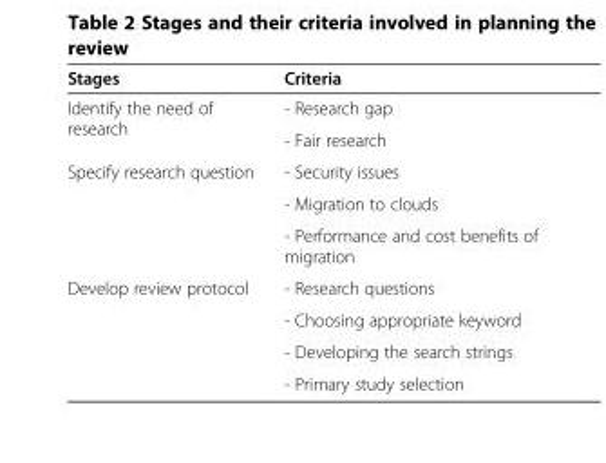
<table><thead><tr><td>Stages</td><td>Criteria</td></tr></thead><tbody><tr><td rowspan="2">Identify the need of research</td><td>- Research gap</td></tr><tr><td>- Fair research</td></tr><tr><td rowspan="3">Specify research question</td><td>- Security issues</td></tr><tr><td>- Migration to clouds</td></tr><tr><td>- Performance and cost benefits of migration</td></tr><tr><td rowspan="4">Develop review protocol</td><td>- Research questions</td></tr><tr><td>- Choosing appropriate keyword</td></tr><tr><td>- Developing the search strings</td></tr><tr><td>- Primary study selection</td></tr></tbody></table>